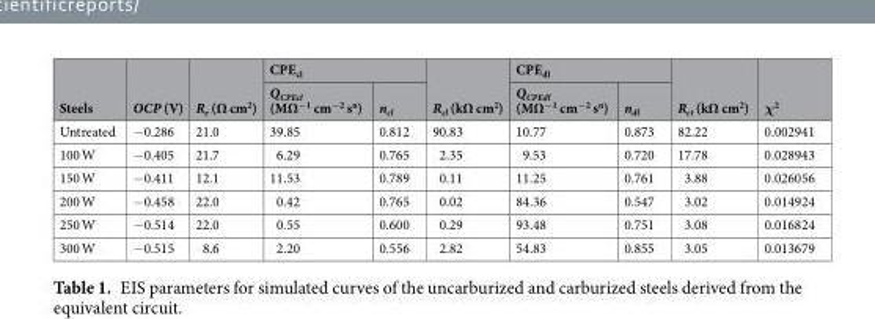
<table><thead><tr><td rowspan="2">Steels</td><td rowspan="2">OCP (V)</td><td rowspan="2">R<sub>e</sub> (Ω cm<sup>2</sup>)</td><td colspan="2">CPE<sub>cl</sub></td><td rowspan="2">R<sub>cl</sub> (kΩ cm<sup>2</sup>)</td><td colspan="2">CPE<sub>dl</sub></td><td rowspan="2">R<sub>ct</sub> (kΩ cm<sup>2</sup>)</td><td rowspan="2">χ<sup>2</sup></td></tr><tr><td>Q<sub>CPEcl</sub> (MΩ<sup>−1</sup> cm<sup>−2</sup> s<sup>n</sup>)</td><td>n<sub>cl</sub></td><td>Q<sub>CPEdl</sub> (MΩ<sup>−1</sup> cm<sup>−2</sup> s<sup>n</sup>)</td><td>n<sub>dl</sub></td></tr></thead><tbody><tr><td>Untreated</td><td>−0.286</td><td>21.0</td><td>39.85</td><td>0.812</td><td>90.83</td><td>10.77</td><td>0.873</td><td>82.22</td><td>0.002941</td></tr><tr><td>100 W</td><td>−0.405</td><td>21.7</td><td>6.29</td><td>0.765</td><td>2.35</td><td>9.53</td><td>0.720</td><td>17.78</td><td>0.028943</td></tr><tr><td>150 W</td><td>−0.411</td><td>12.1</td><td>11.53</td><td>0.789</td><td>0.11</td><td>11.25</td><td>0.761</td><td>3.88</td><td>0.026056</td></tr><tr><td>200 W</td><td>−0.458</td><td>22.0</td><td>0.42</td><td>0.765</td><td>0.02</td><td>84.36</td><td>0.547</td><td>3.02</td><td>0.014924</td></tr><tr><td>250 W</td><td>−0.514</td><td>22.0</td><td>0.55</td><td>0.600</td><td>0.29</td><td>93.48</td><td>0.751</td><td>3.08</td><td>0.016824</td></tr><tr><td>300 W</td><td>−0.515</td><td>8.6</td><td>2.20</td><td>0.556</td><td>2.82</td><td>54.83</td><td>0.855</td><td>3.05</td><td>0.013679</td></tr></tbody></table>